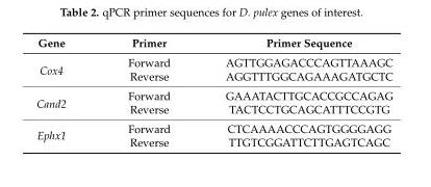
<table><thead><tr><td>Gene</td><td>Primer</td><td>Primer Sequence</td></tr></thead><tbody><tr><td rowspan="2">Cox4</td><td>Forward</td><td>AGTTGGAGACCCAGTTAAAGC</td></tr><tr><td>Reverse</td><td>AGGTTTGGCAGAAAGATGCTC</td></tr><tr><td rowspan="2">Cand2</td><td>Forward</td><td>GAAATACTTGCACCGCCAGAG</td></tr><tr><td>Reverse</td><td>TACTCCTGCAGCATTTCCGTG</td></tr><tr><td rowspan="2">Ephx1</td><td>Forward</td><td>CTCAAAACCCAGTGGGGAGG</td></tr><tr><td>Reverse</td><td>TTGTCGGATTCTTGAGTCAGC</td></tr></tbody></table>